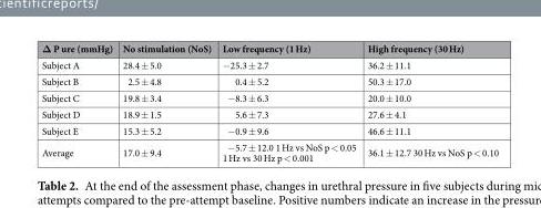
<table><thead><tr><td>Δ P ure (mmHg)</td><td>No stimulation (NoS)</td><td>Low frequency (1 Hz)</td><td>High frequency (30 Hz)</td></tr></thead><tbody><tr><td>Subject A</td><td>28.4 ± 5.0</td><td>−25.3 ± 2.7</td><td>36.2 ± 11.1</td></tr><tr><td>Subject B</td><td>2.5 ± 4.8</td><td>0.4 ± 5.2</td><td>50.3 ± 17.0</td></tr><tr><td>Subject C</td><td>19.8 ± 3.4</td><td>−8.3 ± 6.3</td><td>20.0 ± 10.0</td></tr><tr><td>Subject D</td><td>18.9 ± 1.5</td><td>5.6 ± 7.3</td><td>27.6 ± 4.1</td></tr><tr><td>Subject E</td><td>15.3 ± 5.2</td><td>−0.9 ± 9.6</td><td>46.6 ± 11.1</td></tr><tr><td>Average</td><td>17.0 ± 9.4</td><td>−5.7 ± 12.0 1 Hz vs NoS p &lt; 0.05 1 Hz vs 30 Hz p &lt; 0.001</td><td>36.1 ± 12.7 30 Hz vs NoS p &lt; 0.10</td></tr></tbody></table>